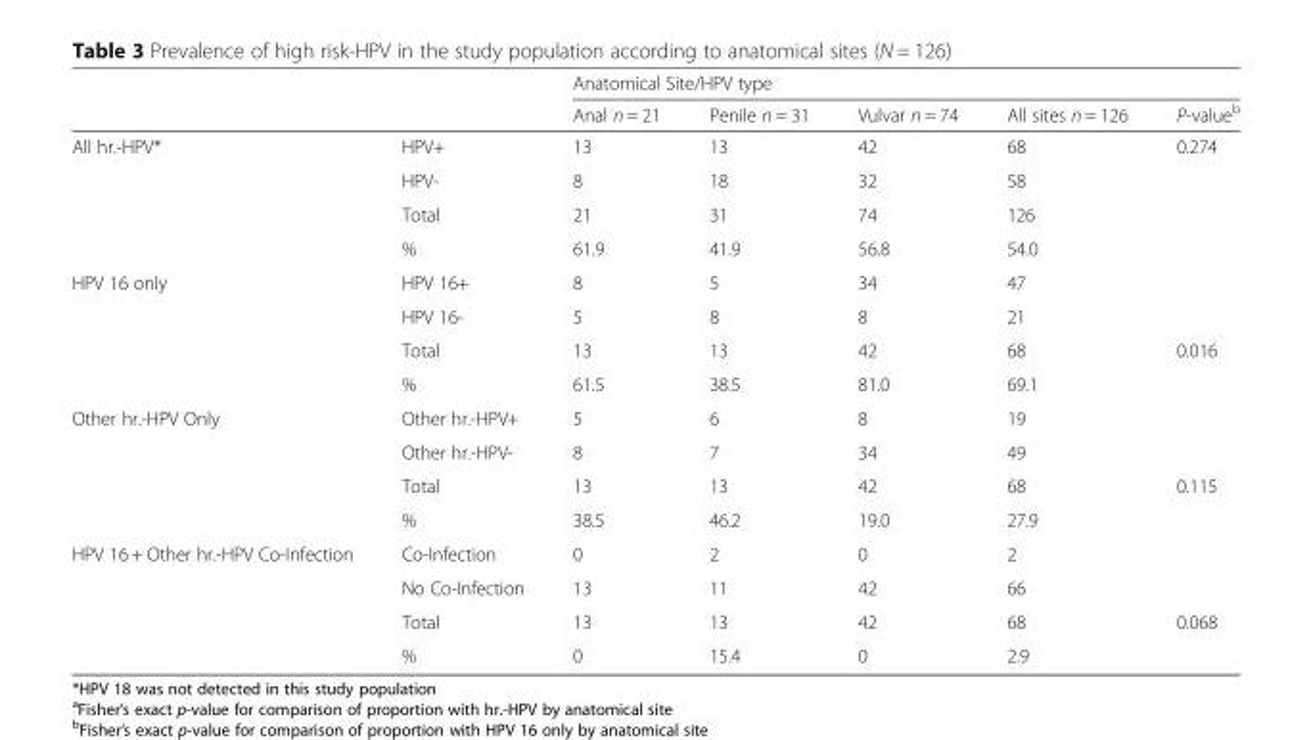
<table><thead><tr><td rowspan="2"></td><td rowspan="2"></td><td colspan="5">Anatomical Site/HPV type</td></tr><tr><td>Anal n = 21</td><td>Penile n = 31</td><td>Vulvar n = 74</td><td>All sites n = 126</td><td>P-value<sup>b</sup></td></tr></thead><tbody><tr><td rowspan="4">All hr.-HPV*</td><td>HPV+</td><td>13</td><td>13</td><td>42</td><td>68</td><td>0.274</td></tr><tr><td>HPV-</td><td>8</td><td>18</td><td>32</td><td>58</td><td></td></tr><tr><td>Total</td><td>21</td><td>31</td><td>74</td><td>126</td><td></td></tr><tr><td>%</td><td>61.9</td><td>41.9</td><td>56.8</td><td>54.0</td><td></td></tr><tr><td rowspan="4">HPV 16 only</td><td>HPV 16+</td><td>8</td><td>5</td><td>34</td><td>47</td><td></td></tr><tr><td>HPV 16-</td><td>5</td><td>8</td><td>8</td><td>21</td><td></td></tr><tr><td>Total</td><td>13</td><td>13</td><td>42</td><td>68</td><td>0.016</td></tr><tr><td>%</td><td>61.5</td><td>38.5</td><td>81.0</td><td>69.1</td><td></td></tr><tr><td rowspan="4">Other hr.-HPV Only</td><td>Other hr.-HPV+</td><td>5</td><td>6</td><td>8</td><td>19</td><td></td></tr><tr><td>Other hr.-HPV-</td><td>8</td><td>7</td><td>34</td><td>49</td><td></td></tr><tr><td>Total</td><td>13</td><td>13</td><td>42</td><td>68</td><td>0.115</td></tr><tr><td>%</td><td>38.5</td><td>46.2</td><td>19.0</td><td>27.9</td><td></td></tr><tr><td rowspan="4">HPV 16 + Other hr.-HPV Co-Infection</td><td>Co-Infection</td><td>0</td><td>2</td><td>0</td><td>2</td><td></td></tr><tr><td>No Co-Infection</td><td>13</td><td>11</td><td>42</td><td>66</td><td></td></tr><tr><td>Total</td><td>13</td><td>13</td><td>42</td><td>68</td><td>0.068</td></tr><tr><td>%</td><td>0</td><td>15.4</td><td>0</td><td>2.9</td><td></td></tr></tbody></table>